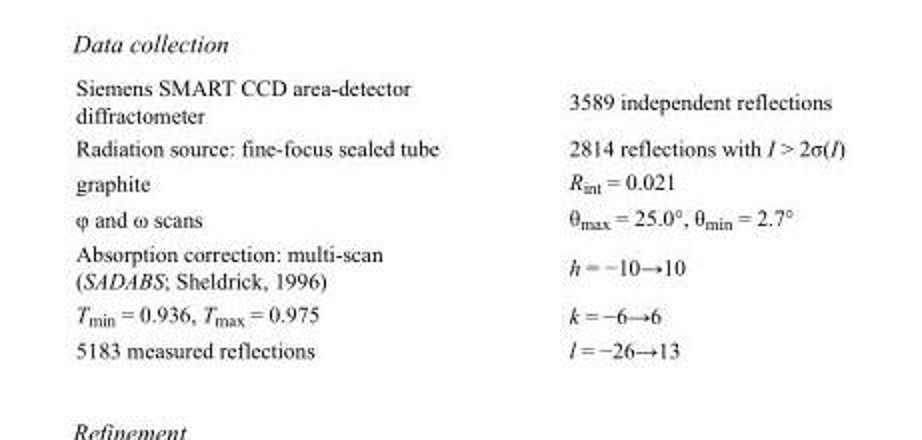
<table><tbody><tr><td>Siemens SMART CCD area-detector diffractometer</td><td>3589 independent reflections</td></tr><tr><td>Radiation source: fine-focus sealed tube</td><td>2814 reflections with I &gt; 2σ(I)</td></tr><tr><td>graphite</td><td>R<sub>int</sub> = 0.021</td></tr><tr><td>φ and ω scans</td><td>θ<sub>max</sub> = 25.0°, θ<sub>min</sub> = 2.7°</td></tr><tr><td>Absorption correction: multi-scan (SADABS; Sheldrick, 1996)</td><td>h = −10→10</td></tr><tr><td>T<sub>min</sub> = 0.936, T<sub>max</sub> = 0.975</td><td>k = −6→6</td></tr><tr><td>5183 measured reflections</td><td>l = −26→13</td></tr></tbody></table>